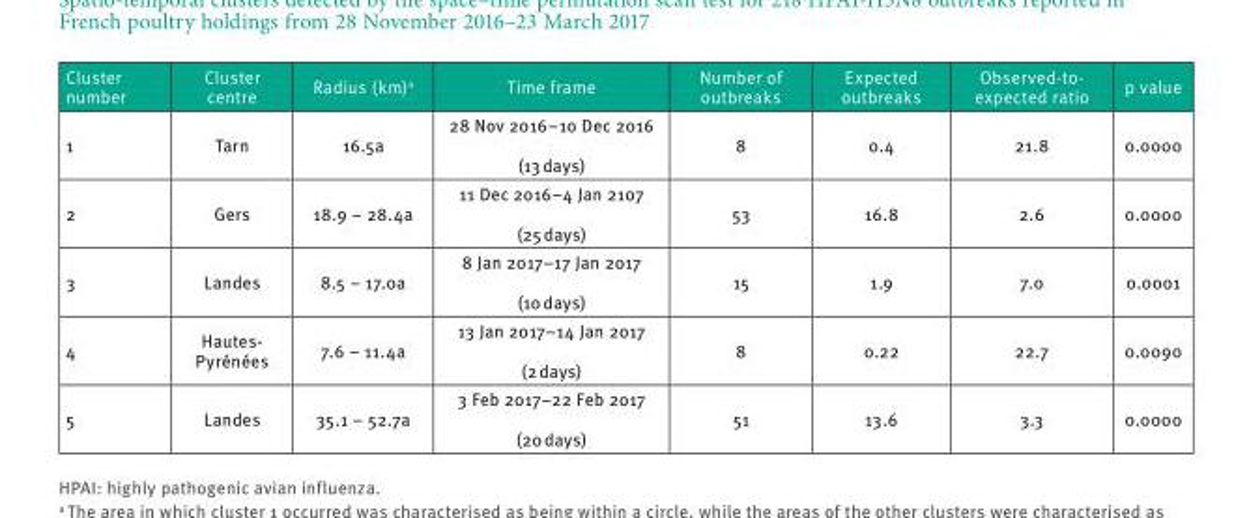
<table><thead><tr><td>Cluster number</td><td>Cluster centre</td><td>Radius (km)<sup>a</sup></td><td>Time frame</td><td>Number of outbreaks</td><td>Expected outbreaks</td><td>Observed-to- expected ratio</td><td>p value</td></tr></thead><tbody><tr><td>1</td><td>Tarn</td><td>16.5<sup>a</sup></td><td>28 Nov 2016–10 Dec 2016 (13 days)</td><td>8</td><td>0.4</td><td>21.8</td><td>0.0000</td></tr><tr><td>2</td><td>Gers</td><td>18.9 – 28.4<sup>a</sup></td><td>11 Dec 2016–4 Jan 2107 (25 days)</td><td>53</td><td>16.8</td><td>2.6</td><td>0.0000</td></tr><tr><td>3</td><td>Landes</td><td>8.5 – 17.0<sup>a</sup></td><td>8 Jan 2017–17 Jan 2017 (10 days)</td><td>15</td><td>1.9</td><td>7.0</td><td>0.0001</td></tr><tr><td>4</td><td>Hautes- Pyrénées</td><td>7.6 – 11.4<sup>a</sup></td><td>13 Jan 2017–14 Jan 2017 (2 days)</td><td>8</td><td>0.22</td><td>22.7</td><td>0.0090</td></tr><tr><td>5</td><td>Landes</td><td>35.1 – 52.7<sup>a</sup></td><td>3 Feb 2017–22 Feb 2017 (20 days)</td><td>51</td><td>13.6</td><td>3.3</td><td>0.0000</td></tr></tbody></table>